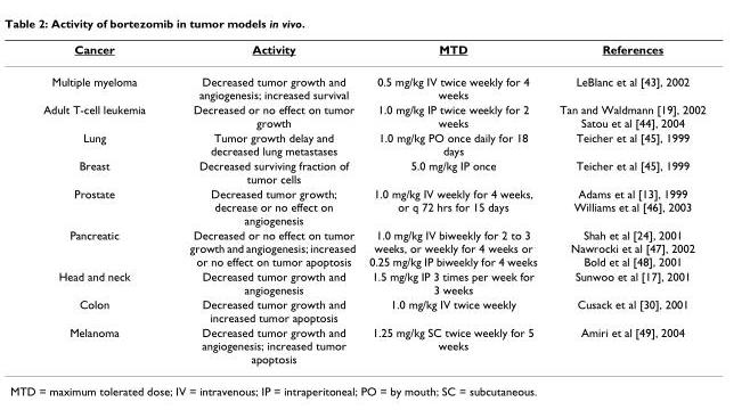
<table><thead><tr><td>Cancer</td><td>Activity</td><td>MTD</td><td>References</td></tr></thead><tbody><tr><td>Multiple myeloma</td><td>Decreased tumor growth and angiogenesis; increased survival</td><td>0.5 mg/kg IV twice weekly for 4 weeks</td><td>LeBlanc et al [43], 2002</td></tr><tr><td>Adult T-cell leukemia</td><td>Decreased or no effect on tumor growth</td><td>1.0 mg/kg IP twice weekly for 2 weeks</td><td>Tan and Waldmann [19], 2002 Satou et al [44], 2004</td></tr><tr><td>Lung</td><td>Tumor growth delay and decreased lung metastases</td><td>1.0 mg/kg PO once daily for 18 days</td><td>Teicher et al [45], 1999</td></tr><tr><td>Breast</td><td>Decreased surviving fraction of tumor cells</td><td>5.0 mg/kg IP once</td><td>Teicher et al [45], 1999</td></tr><tr><td>Prostate</td><td>Decreased tumor growth; decrease or no effect on angiogenesis</td><td>1.0 mg/kg IV weekly for 4 weeks, or q 72 hrs for 15 days</td><td>Adams et al [13], 1999 Williams et al [46], 2003</td></tr><tr><td>Pancreatic</td><td>Decreased or no effect on tumor growth and angiogenesis; increased or no effect on tumor apoptosis</td><td>1.0 mg/kg IV biweekly for 2 to 3 weeks, or weekly for 4 weeks or 0.25 mg/kg IP biweekly for 4 weeks</td><td>Shah et al [24], 2001 Nawrocki et al [47], 2002 Bold et al [48], 2001</td></tr><tr><td>Head and neck</td><td>Decreased tumor growth and angiogenesis</td><td>1.5 mg/kg IP 3 times per week for 3 weeks</td><td>Sunwoo et al [17], 2001</td></tr><tr><td>Colon</td><td>Decreased tumor growth and increased tumor apoptosis</td><td>1.0 mg/kg IV twice weekly</td><td>Cusack et al [30], 2001</td></tr><tr><td>Melanoma</td><td>Decreased tumor growth and angiogenesis; increased tumor apoptosis</td><td>1.25 mg/kg SC twice weekly for 5 weeks</td><td>Amiri et al [49], 2004</td></tr></tbody></table>